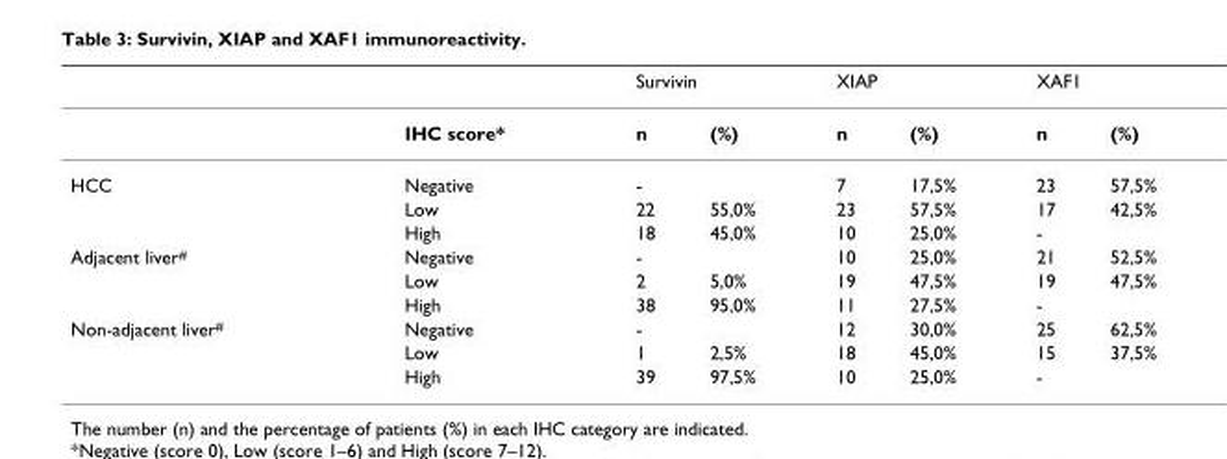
<table><thead><tr><td rowspan="2"></td><td rowspan="2">IHC score*</td><td colspan="2">Survivin</td><td colspan="2">XIAP</td><td colspan="2">XAF1</td></tr><tr><td>n</td><td>(%)</td><td>n</td><td>(%)</td><td>n</td><td>(%)</td></tr></thead><tbody><tr><td rowspan="3">HCC</td><td>Negative</td><td>-</td><td></td><td>7</td><td>17,5%</td><td>23</td><td>57,5%</td></tr><tr><td>Low</td><td>22</td><td>55,0%</td><td>23</td><td>57,5%</td><td>17</td><td>42,5%</td></tr><tr><td>High</td><td>18</td><td>45,0%</td><td>10</td><td>25,0%</td><td>-</td><td></td></tr><tr><td rowspan="3">Adjacent liver<sup>#</sup></td><td>Negative</td><td>-</td><td></td><td>10</td><td>25,0%</td><td>21</td><td>52,5%</td></tr><tr><td>Low</td><td>2</td><td>5,0%</td><td>19</td><td>47,5%</td><td>19</td><td>47,5%</td></tr><tr><td>High</td><td>38</td><td>95,0%</td><td>11</td><td>27,5%</td><td>-</td><td></td></tr><tr><td rowspan="3">Non-adjacent liver<sup>#</sup></td><td>Negative</td><td>-</td><td></td><td>12</td><td>30,0%</td><td>25</td><td>62,5%</td></tr><tr><td>Low</td><td>1</td><td>2,5%</td><td>18</td><td>45,0%</td><td>15</td><td>37,5%</td></tr><tr><td>High</td><td>39</td><td>97,5%</td><td>10</td><td>25,0%</td><td>-</td><td></td></tr></tbody></table>